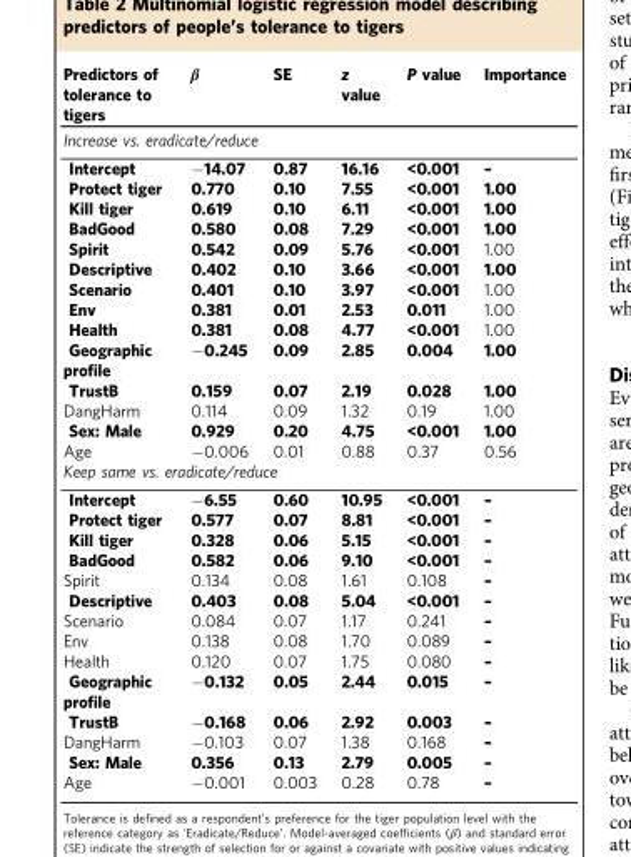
<table><thead><tr><td>Predictors of tolerance to tigers</td><td>β</td><td>SE</td><td>z value</td><td>P value</td><td>Importance</td></tr></thead><tbody><tr><td colspan="6">Increase vs. eradicate/reduce</td></tr><tr><td>Intercept</td><td>−14.07</td><td>0.87</td><td>16.16</td><td>&lt;0.001</td><td>–</td></tr><tr><td>Protect tiger</td><td>0.770</td><td>0.10</td><td>7.55</td><td>&lt;0.001</td><td>1.00</td></tr><tr><td>Kill tiger</td><td>0.619</td><td>0.10</td><td>6.11</td><td>&lt;0.001</td><td>1.00</td></tr><tr><td>BadGood</td><td>0.580</td><td>0.08</td><td>7.29</td><td>&lt;0.001</td><td>1.00</td></tr><tr><td>Spirit</td><td>0.542</td><td>0.09</td><td>5.76</td><td>&lt;0.001</td><td>1.00</td></tr><tr><td>Descriptive</td><td>0.402</td><td>0.10</td><td>3.66</td><td>&lt;0.001</td><td>1.00</td></tr><tr><td>Scenario</td><td>0.401</td><td>0.10</td><td>3.97</td><td>&lt;0.001</td><td>1.00</td></tr><tr><td>Env</td><td>0.381</td><td>0.01</td><td>2.53</td><td>0.011</td><td>1.00</td></tr><tr><td>Health</td><td>0.381</td><td>0.08</td><td>4.77</td><td>&lt;0.001</td><td>1.00</td></tr><tr><td>Geographic profile</td><td>−0.245</td><td>0.09</td><td>2.85</td><td>0.004</td><td>1.00</td></tr><tr><td>TrustB</td><td>0.159</td><td>0.07</td><td>2.19</td><td>0.028</td><td>1.00</td></tr><tr><td>DangHarm</td><td>0.114</td><td>0.09</td><td>1.32</td><td>0.19</td><td>1.00</td></tr><tr><td>Sex: Male</td><td>0.929</td><td>0.20</td><td>4.75</td><td>&lt;0.001</td><td>1.00</td></tr><tr><td>Age</td><td>−0.006</td><td>0.01</td><td>0.88</td><td>0.37</td><td>0.56</td></tr><tr><td colspan="6">Keep same vs. eradicate/reduce</td></tr><tr><td>Intercept</td><td>−6.55</td><td>0.60</td><td>10.95</td><td>&lt;0.001</td><td>–</td></tr><tr><td>Protect tiger</td><td>0.577</td><td>0.07</td><td>8.81</td><td>&lt;0.001</td><td>–</td></tr><tr><td>Kill tiger</td><td>0.328</td><td>0.06</td><td>5.15</td><td>&lt;0.001</td><td>–</td></tr><tr><td>BadGood</td><td>0.582</td><td>0.06</td><td>9.10</td><td>&lt;0.001</td><td>–</td></tr><tr><td>Spirit</td><td>0.134</td><td>0.08</td><td>1.61</td><td>0.108</td><td>–</td></tr><tr><td>Descriptive</td><td>0.403</td><td>0.08</td><td>5.04</td><td>&lt;0.001</td><td>–</td></tr><tr><td>Scenario</td><td>0.084</td><td>0.07</td><td>1.17</td><td>0.241</td><td>–</td></tr><tr><td>Env</td><td>0.138</td><td>0.08</td><td>1.70</td><td>0.089</td><td>–</td></tr><tr><td>Health</td><td>0.120</td><td>0.07</td><td>1.75</td><td>0.080</td><td>–</td></tr><tr><td>Geographic profile</td><td>−0.132</td><td>0.05</td><td>2.44</td><td>0.015</td><td>–</td></tr><tr><td>TrustB</td><td>−0.168</td><td>0.06</td><td>2.92</td><td>0.003</td><td>–</td></tr><tr><td>DangHarm</td><td>−0.103</td><td>0.07</td><td>1.38</td><td>0.168</td><td>–</td></tr><tr><td>Sex: Male</td><td>0.356</td><td>0.13</td><td>2.79</td><td>0.005</td><td>–</td></tr><tr><td>Age</td><td>−0.001</td><td>0.003</td><td>0.28</td><td>0.78</td><td>–</td></tr></tbody></table>